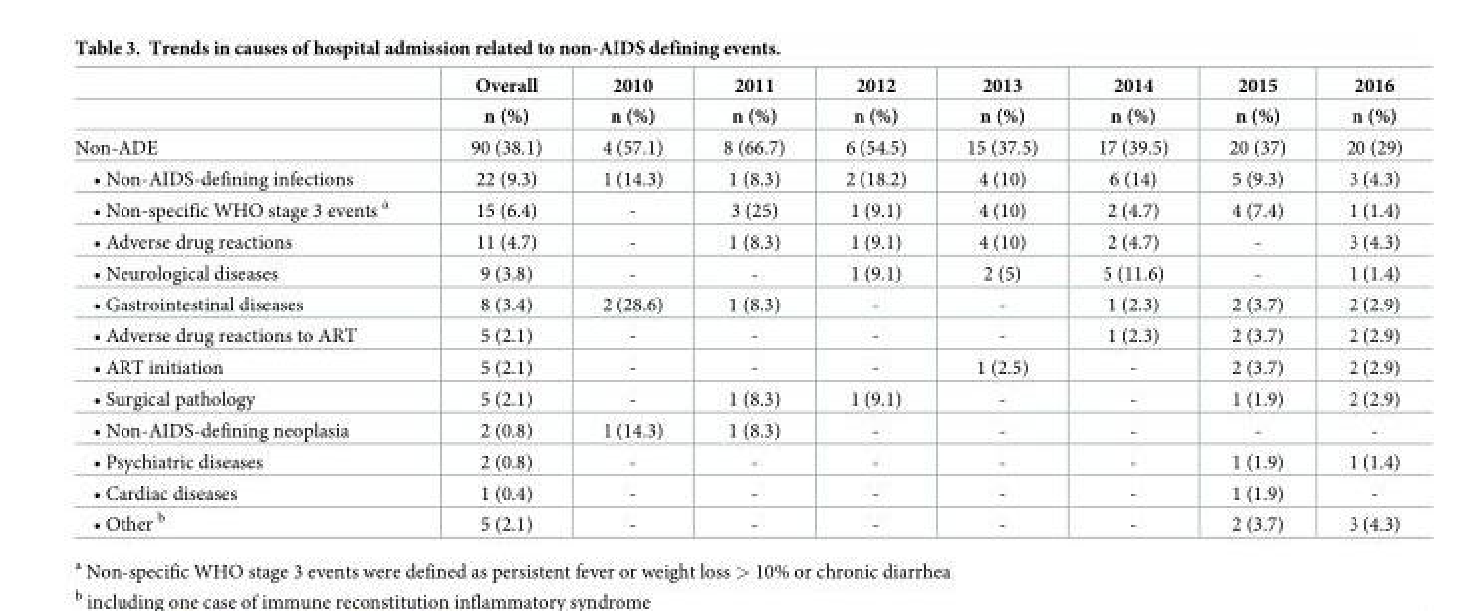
<table><thead><tr><td rowspan="2"></td><td rowspan="2">Overall n (%)</td><td rowspan="2">2010 n (%)</td><td rowspan="2">2011 n (%)</td><td rowspan="2">2012 n (%)</td><td rowspan="2">2013 n (%)</td><td rowspan="2">2014 n (%)</td><td rowspan="2">2015 n (%)</td><td rowspan="2">2016 n (%)</td></tr><tr></tr></thead><tbody><tr><td>Non-ADE</td><td>90 (38.1)</td><td>4 (57.1)</td><td>8 (66.7)</td><td>6 (54.5)</td><td>15 (37.5)</td><td>17 (39.5)</td><td>20 (37)</td><td>20 (29)</td></tr><tr><td>• Non-AIDS-defining infections</td><td>22 (9.3)</td><td>1 (14.3)</td><td>1 (8.3)</td><td>2 (18.2)</td><td>4 (10)</td><td>6 (14)</td><td>5 (9.3)</td><td>3 (4.3)</td></tr><tr><td>• Non-specific WHO stage 3 events <sup>a</sup></td><td>15 (6.4)</td><td>-</td><td>3 (25)</td><td>1 (9.1)</td><td>4 (10)</td><td>2 (4.7)</td><td>4 (7.4)</td><td>1 (1.4)</td></tr><tr><td>• Adverse drug reactions</td><td>11 (4.7)</td><td>-</td><td>1 (8.3)</td><td>1 (9.1)</td><td>4 (10)</td><td>2 (4.7)</td><td>-</td><td>3 (4.3)</td></tr><tr><td>• Neurological diseases</td><td>9 (3.8)</td><td>-</td><td>-</td><td>1 (9.1)</td><td>2 (5)</td><td>5 (11.6)</td><td>-</td><td>1 (1.4)</td></tr><tr><td>• Gastrointestinal diseases</td><td>8 (3.4)</td><td>2 (28.6)</td><td>1 (8.3)</td><td>-</td><td>-</td><td>1 (2.3)</td><td>2 (3.7)</td><td>2 (2.9)</td></tr><tr><td>• Adverse drug reactions to ART</td><td>5 (2.1)</td><td>-</td><td>-</td><td>-</td><td>-</td><td>1 (2.3)</td><td>2 (3.7)</td><td>2 (2.9)</td></tr><tr><td>• ART initiation</td><td>5 (2.1)</td><td>-</td><td>-</td><td>-</td><td>1 (2.5)</td><td>-</td><td>2 (3.7)</td><td>2 (2.9)</td></tr><tr><td>• Surgical pathology</td><td>5 (2.1)</td><td>-</td><td>1 (8.3)</td><td>1 (9.1)</td><td>-</td><td>-</td><td>1 (1.9)</td><td>2 (2.9)</td></tr><tr><td>• Non-AIDS-defining neoplasia</td><td>2 (0.8)</td><td>1 (14.3)</td><td>1 (8.3)</td><td>-</td><td>-</td><td>-</td><td>-</td><td>-</td></tr><tr><td>• Psychiatric diseases</td><td>2 (0.8)</td><td>-</td><td>-</td><td>-</td><td>-</td><td>-</td><td>1 (1.9)</td><td>1 (1.4)</td></tr><tr><td>• Cardiac diseases</td><td>1 (0.4)</td><td>-</td><td>-</td><td>-</td><td>-</td><td>-</td><td>1 (1.9)</td><td>-</td></tr><tr><td>• Other <sup>b</sup></td><td>5 (2.1)</td><td>-</td><td>-</td><td>-</td><td>-</td><td>-</td><td>2 (3.7)</td><td>3 (4.3)</td></tr></tbody></table>